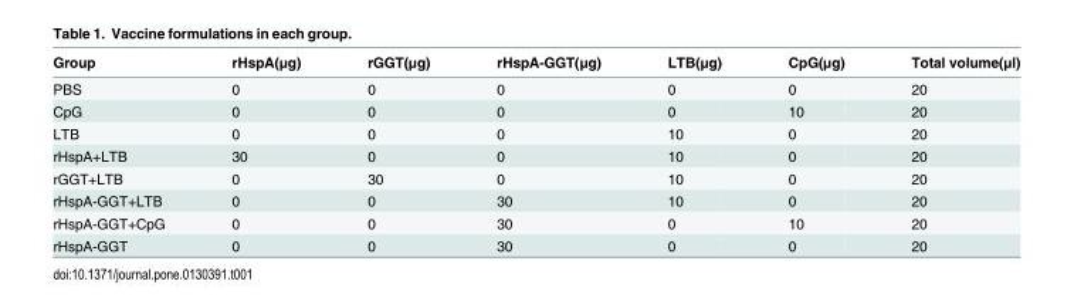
<table><thead><tr><td>Group</td><td>rHspA(μg)</td><td>rGGT(μg)</td><td>rHspA-GGT(μg)</td><td>LTB(μg)</td><td>CpG(μg)</td><td>Total volume(μl)</td></tr></thead><tbody><tr><td>PBS</td><td>0</td><td>0</td><td>0</td><td>0</td><td>0</td><td>20</td></tr><tr><td>CpG</td><td>0</td><td>0</td><td>0</td><td>0</td><td>10</td><td>20</td></tr><tr><td>LTB</td><td>0</td><td>0</td><td>0</td><td>10</td><td>0</td><td>20</td></tr><tr><td>rHspA+LTB</td><td>30</td><td>0</td><td>0</td><td>10</td><td>0</td><td>20</td></tr><tr><td>rGGT+LTB</td><td>0</td><td>30</td><td>0</td><td>10</td><td>0</td><td>20</td></tr><tr><td>rHspA-GGT+LTB</td><td>0</td><td>0</td><td>30</td><td>10</td><td>0</td><td>20</td></tr><tr><td>rHspA-GGT+CpG</td><td>0</td><td>0</td><td>30</td><td>0</td><td>10</td><td>20</td></tr><tr><td>rHspA-GGT</td><td>0</td><td>0</td><td>30</td><td>0</td><td>0</td><td>20</td></tr></tbody></table>